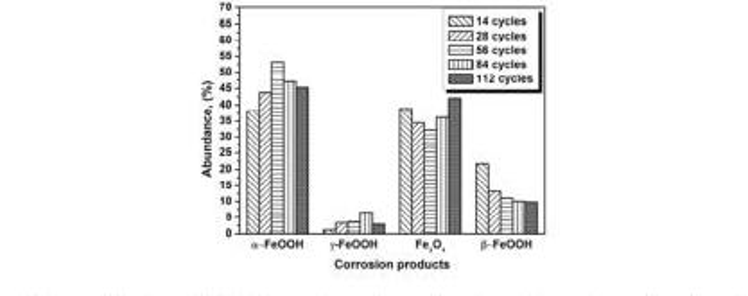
<table><thead><tr><td>Numbers of Cycles</td><td>α-FeOOH</td><td>γ-FeOOH</td><td>Fe<sub>3</sub>O<sub>4</sub></td><td>β-FeOOH</td></tr></thead><tbody><tr><td>14 cycles</td><td>38.25</td><td>1.22</td><td>38.82</td><td>21.70</td></tr><tr><td>28 cycles</td><td>43.77</td><td>3.34</td><td>34.50</td><td>13.28</td></tr><tr><td>56 cycles</td><td>53.14</td><td>3.58</td><td>32.18</td><td>11.10</td></tr><tr><td>84 cycles</td><td>47.11</td><td>6.60</td><td>36.23</td><td>10.06</td></tr><tr><td>112 cycles</td><td>45.29</td><td>2.90</td><td>42.02</td><td>9.78</td></tr></tbody></table>